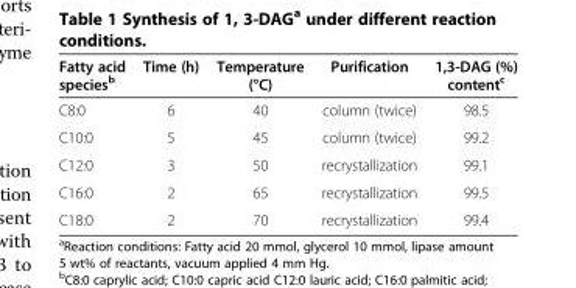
<table><thead><tr><td>Fatty acid species<sup>b</sup></td><td>Time (h)</td><td>Temperature (°C)</td><td>Purification</td><td>1,3-DAG (%) content<sup>c</sup></td></tr></thead><tbody><tr><td>C8:0</td><td>6</td><td>40</td><td>column (twice)</td><td>98.5</td></tr><tr><td>C10:0</td><td>5</td><td>45</td><td>column (twice)</td><td>99.2</td></tr><tr><td>C12:0</td><td>3</td><td>50</td><td>recrystallization</td><td>99.1</td></tr><tr><td>C16:0</td><td>2</td><td>65</td><td>recrystallization</td><td>99.5</td></tr><tr><td>C18:0</td><td>2</td><td>70</td><td>recrystallization</td><td>99.4</td></tr></tbody></table>